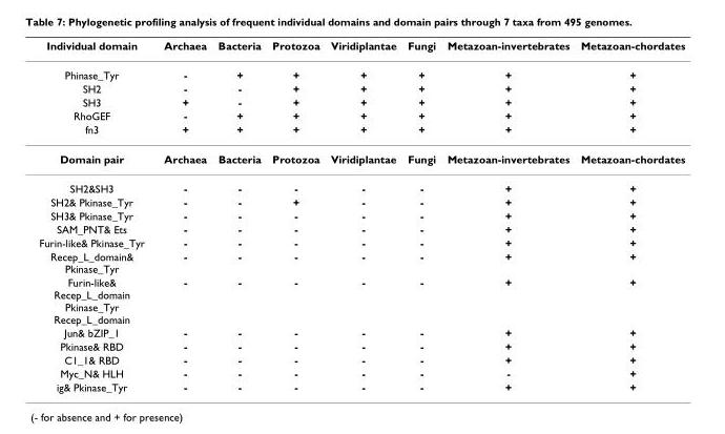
<table><thead><tr><td>Individual domain</td><td>Archaea</td><td>Bacteria</td><td>Protozoa</td><td>Viridiplantae</td><td>Fungi</td><td>Metazoan-invertebrates</td><td>Metazoan-chordates</td></tr></thead><tbody><tr><td>Phinase_Tyr</td><td>-</td><td>+</td><td>+</td><td>+</td><td>+</td><td>+</td><td>+</td></tr><tr><td>SH2</td><td>-</td><td>-</td><td>+</td><td>+</td><td>+</td><td>+</td><td>+</td></tr><tr><td>SH3</td><td>+</td><td>-</td><td>+</td><td>+</td><td>+</td><td>+</td><td>+</td></tr><tr><td>RhoGEF</td><td>-</td><td>+</td><td>+</td><td>+</td><td>+</td><td>+</td><td>+</td></tr><tr><td>fn3</td><td>+</td><td>+</td><td>+</td><td>+</td><td>+</td><td>+</td><td>+</td></tr><tr><td>Domain pair</td><td>Archaea</td><td>Bacteria</td><td>Protozoa</td><td>Viridiplantae</td><td>Fungi</td><td>Metazoan-invertebrates</td><td>Metazoan-chordates</td></tr><tr><td>SH2&amp;SH3</td><td>-</td><td>-</td><td>-</td><td>-</td><td>-</td><td>+</td><td>+</td></tr><tr><td>SH2&amp; Pkinase_Tyr</td><td>-</td><td>-</td><td>+</td><td>-</td><td>-</td><td>+</td><td>+</td></tr><tr><td>SH3&amp; Pkinase_Tyr</td><td>-</td><td>-</td><td>-</td><td>-</td><td>-</td><td>+</td><td>+</td></tr><tr><td>SAM_PNT&amp; Ets</td><td>-</td><td>-</td><td>-</td><td>-</td><td>-</td><td>+</td><td>+</td></tr><tr><td>Furin-like&amp; Pkinase_Tyr</td><td>-</td><td>-</td><td>-</td><td>-</td><td>-</td><td>+</td><td>+</td></tr><tr><td>Recep_L_domain&amp; Pkinase_Tyr</td><td>-</td><td>-</td><td>-</td><td>-</td><td>-</td><td>+</td><td>+</td></tr><tr><td>Furin-like&amp; Recep_L_domain Pkinase_Tyr Recep_L_domain</td><td>-</td><td>-</td><td>-</td><td>-</td><td>-</td><td>+</td><td>+</td></tr><tr><td>Jun&amp; bZIP_1</td><td>-</td><td>-</td><td>-</td><td>-</td><td>-</td><td>+</td><td>+</td></tr><tr><td>Pkinase&amp; RBD</td><td>-</td><td>-</td><td>-</td><td>-</td><td>-</td><td>+</td><td>+</td></tr><tr><td>C1_1&amp; RBD</td><td>-</td><td>-</td><td>-</td><td>-</td><td>-</td><td>+</td><td>+</td></tr><tr><td>Myc_N&amp; HLH</td><td>-</td><td>-</td><td>-</td><td>-</td><td>-</td><td>-</td><td>+</td></tr><tr><td>ig&amp; Pkinase_Tyr</td><td>-</td><td>-</td><td>-</td><td>-</td><td>-</td><td>+</td><td>+</td></tr></tbody></table>